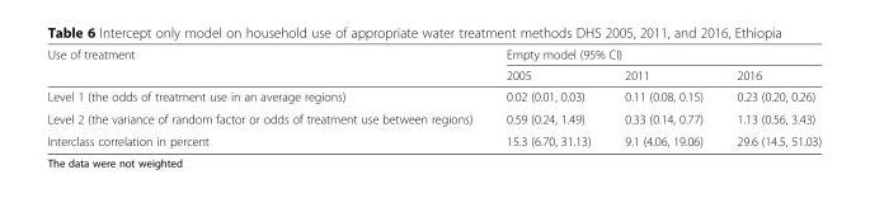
<table><thead><tr><td rowspan="2">Use of treatment</td><td colspan="3">Empty model (95% CI)</td></tr><tr><td>2005</td><td>2011</td><td>2016</td></tr></thead><tbody><tr><td>Level 1 (the odds of treatment use in an average regions)</td><td>0.02 (0.01, 0.03)</td><td>0.11 (0.08, 0.15)</td><td>0.23 (0.20, 0.26)</td></tr><tr><td>Level 2 (the variance of random factor or odds of treatment use between regions)</td><td>0.59 (0.24, 1.49)</td><td>0.33 (0.14, 0.77)</td><td>1.13 (0.56, 3.43)</td></tr><tr><td>Interclass correlation in percent</td><td>15.3 (6.70, 31.13)</td><td>9.1 (4.06, 19.06)</td><td>29.6 (14.5, 51.03)</td></tr></tbody></table>